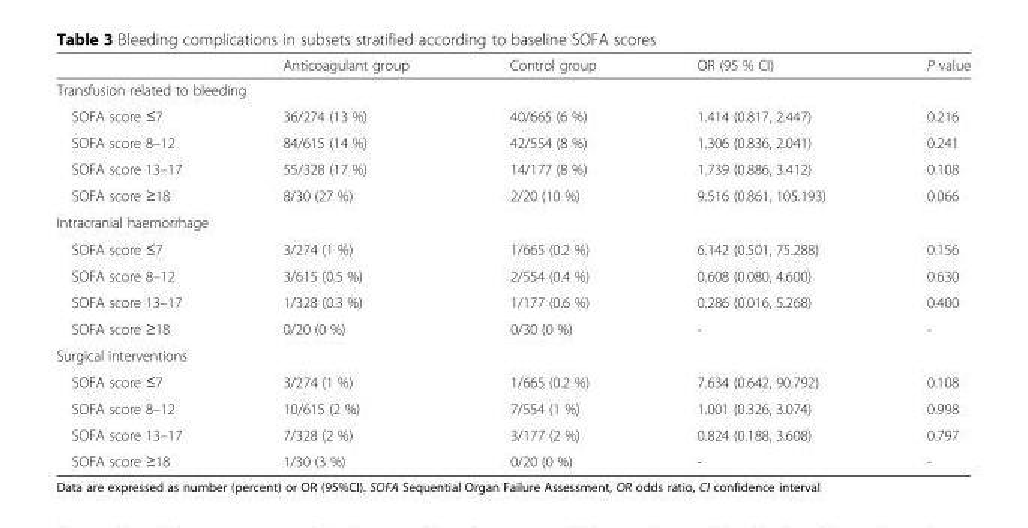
<table><thead><tr><td></td><td>Anticoagulant group</td><td>Control group</td><td>OR (95 % CI)</td><td>P value</td></tr></thead><tbody><tr><td colspan="5">Transfusion related to bleeding</td></tr><tr><td>SOFA score ≤7</td><td>36/274 (13 %)</td><td>40/665 (6 %)</td><td>1.414 (0.817, 2.447)</td><td>0.216</td></tr><tr><td>SOFA score 8–12</td><td>84/615 (14 %)</td><td>42/554 (8 %)</td><td>1.306 (0.836, 2.041)</td><td>0.241</td></tr><tr><td>SOFA score 13–17</td><td>55/328 (17 %)</td><td>14/177 (8 %)</td><td>1.739 (0.886, 3.412)</td><td>0.108</td></tr><tr><td>SOFA score ≥18</td><td>8/30 (27 %)</td><td>2/20 (10 %)</td><td>9.516 (0.861, 105.193)</td><td>0.066</td></tr><tr><td colspan="5">Intracranial haemorrhage</td></tr><tr><td>SOFA score ≤7</td><td>3/274 (1 %)</td><td>1/665 (0.2 %)</td><td>6.142 (0.501, 75.288)</td><td>0.156</td></tr><tr><td>SOFA score 8–12</td><td>3/615 (0.5 %)</td><td>2/554 (0.4 %)</td><td>0.608 (0.080, 4.600)</td><td>0.630</td></tr><tr><td>SOFA score 13–17</td><td>1/328 (0.3 %)</td><td>1/177 (0.6 %)</td><td>0.286 (0.016, 5.268)</td><td>0.400</td></tr><tr><td>SOFA score ≥18</td><td>0/20 (0 %)</td><td>0/30 (0 %)</td><td>-</td><td>-</td></tr><tr><td colspan="5">Surgical interventions</td></tr><tr><td>SOFA score ≤7</td><td>3/274 (1 %)</td><td>1/665 (0.2 %)</td><td>7.634 (0.642, 90.792)</td><td>0.108</td></tr><tr><td>SOFA score 8–12</td><td>10/615 (2 %)</td><td>7/554 (1 %)</td><td>1.001 (0.326, 3.074)</td><td>0.998</td></tr><tr><td>SOFA score 13–17</td><td>7/328 (2 %)</td><td>3/177 (2 %)</td><td>0.824 (0.188, 3.608)</td><td>0.797</td></tr><tr><td>SOFA score ≥18</td><td>1/30 (3 %)</td><td>0/20 (0 %)</td><td>-</td><td>-</td></tr></tbody></table>